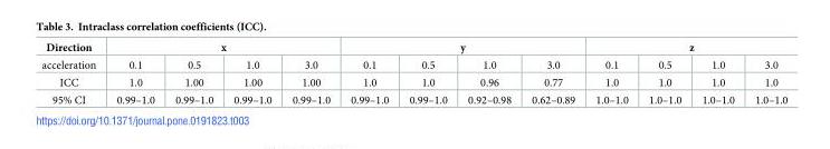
<table><thead><tr><td rowspan="2">Direction acceleration</td><td colspan="4">x</td><td colspan="4">y</td><td colspan="4">z</td></tr><tr><td>0.1</td><td>0.5</td><td>1.0</td><td>3.0</td><td>0.1</td><td>0.5</td><td>1.0</td><td>3.0</td><td>0.1</td><td>0.5</td><td>1.0</td><td>3.0</td></tr></thead><tbody><tr><td>ICC</td><td>1.0</td><td>1.00</td><td>1.00</td><td>1.00</td><td>1.0</td><td>1.0</td><td>0.96</td><td>0.77</td><td>1.0</td><td>1.0</td><td>1.0</td><td>1.0</td></tr><tr><td>95% CI</td><td>0.99–1.0</td><td>0.99–1.0</td><td>0.99–1.0</td><td>0.99–1.0</td><td>0.99–1.0</td><td>0.99–1.0</td><td>0.92–0.98</td><td>0.62–0.89</td><td>1.0–1.0</td><td>1.0–1.0</td><td>1.0–1.0</td><td>1.0–1.0</td></tr></tbody></table>